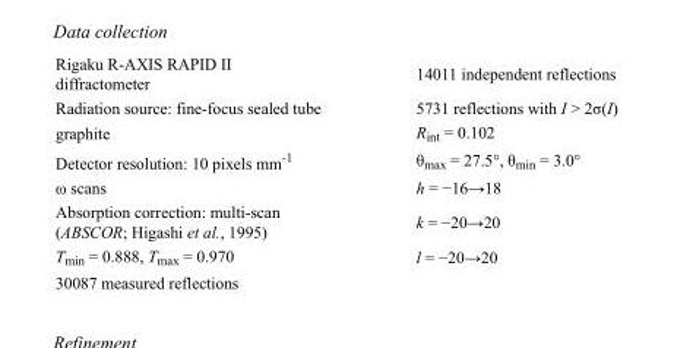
<table><tbody><tr><td>Rigaku R-AXIS RAPID II diffractometer</td><td>14011 independent reflections</td></tr><tr><td>Radiation source: fine-focus sealed tube</td><td>5731 reflections with I &gt; 2σ(I)</td></tr><tr><td>graphite</td><td>R<sub>int</sub> = 0.102</td></tr><tr><td>Detector resolution: 10 pixels mm<sup>-1</sup></td><td>θ<sub>max</sub> = 27.5°, θ<sub>min</sub> = 3.0°</td></tr><tr><td>ω scans</td><td>h = −16→18</td></tr><tr><td>Absorption correction: multi-scan (ABSCOR; Higashi et al., 1995)</td><td>k = −20→20</td></tr><tr><td>T<sub>min</sub> = 0.888, T<sub>max</sub> = 0.970</td><td>l = −20→20</td></tr><tr><td>30087 measured reflections</td><td></td></tr></tbody></table>